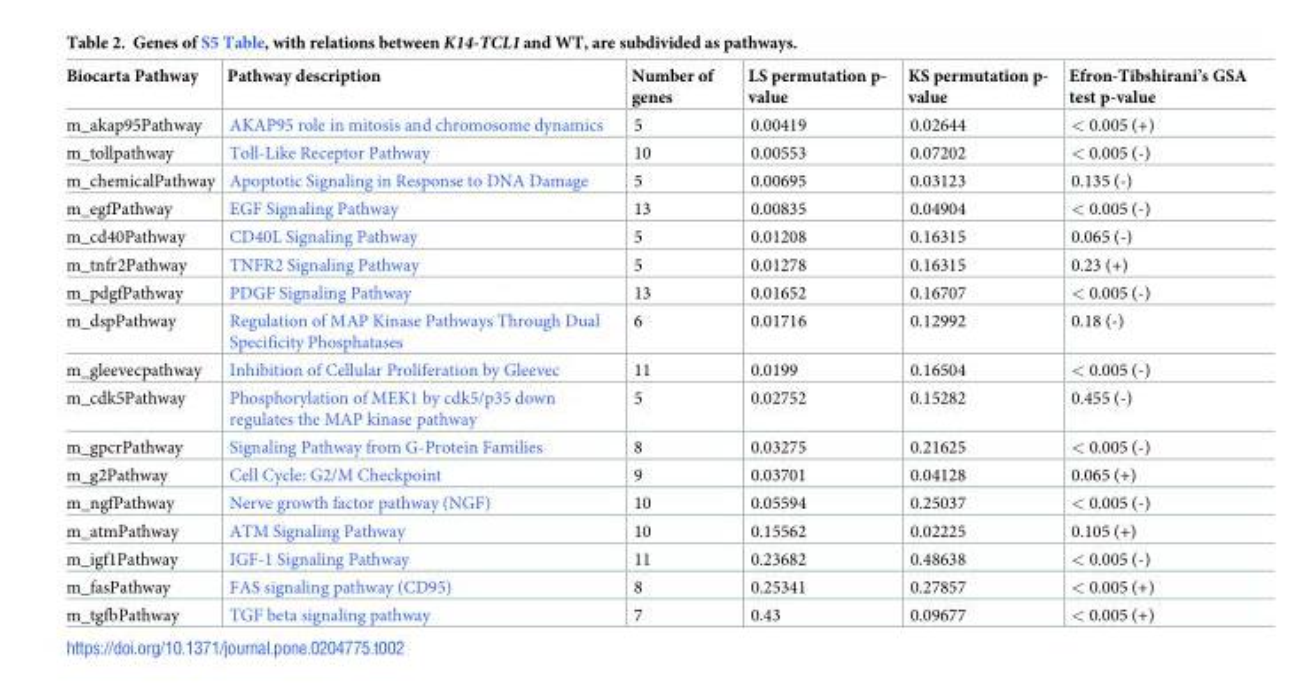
<table><thead><tr><td>Biocarta Pathway</td><td>Pathway description</td><td>Number of genes</td><td>LS permutation p- value</td><td>KS permutation p- value</td><td>Efron-Tibshirani’s GSA test p-value</td></tr></thead><tbody><tr><td>m_akap95Pathway</td><td>AKAP95 role in mitosis and chromosome dynamics</td><td>5</td><td>0.00419</td><td>0.02644</td><td>&lt; 0.005 (+)</td></tr><tr><td>m_tollpathway</td><td>Toll-Like Receptor Pathway</td><td>10</td><td>0.00553</td><td>0.07202</td><td>&lt; 0.005 (-)</td></tr><tr><td>m_chemicalPathway</td><td>Apoptotic Signaling in Response to DNA Damage</td><td>5</td><td>0.00695</td><td>0.03123</td><td>0.135 (-)</td></tr><tr><td>m_egfPathway</td><td>EGF Signaling Pathway</td><td>13</td><td>0.00835</td><td>0.04904</td><td>&lt; 0.005 (-)</td></tr><tr><td>m_cd40Pathway</td><td>CD40L Signaling Pathway</td><td>5</td><td>0.01208</td><td>0.16315</td><td>0.065 (-)</td></tr><tr><td>m_tnfr2Pathway</td><td>TNFR2 Signaling Pathway</td><td>5</td><td>0.01278</td><td>0.16315</td><td>0.23 (+)</td></tr><tr><td>m_pdgfPathway</td><td>PDGF Signaling Pathway</td><td>13</td><td>0.01652</td><td>0.16707</td><td>&lt; 0.005 (-)</td></tr><tr><td>m_dspPathway</td><td>Regulation of MAP Kinase Pathways Through Dual Specificity Phosphatases</td><td>6</td><td>0.01716</td><td>0.12992</td><td>0.18 (-)</td></tr><tr><td>m_gleevecpathway</td><td>Inhibition of Cellular Proliferation by Gleevec</td><td>11</td><td>0.0199</td><td>0.16504</td><td>&lt; 0.005 (-)</td></tr><tr><td>m_cdk5Pathway</td><td>Phosphorylation of MEK1 by cdk5/p35 down regulates the MAP kinase pathway</td><td>5</td><td>0.02752</td><td>0.15282</td><td>0.455 (-)</td></tr><tr><td>m_gpcrPathway</td><td>Signaling Pathway from G-Protein Families</td><td>8</td><td>0.03275</td><td>0.21625</td><td>&lt; 0.005 (-)</td></tr><tr><td>m_g2Pathway</td><td>Cell Cycle: G2/M Checkpoint</td><td>9</td><td>0.03701</td><td>0.04128</td><td>0.065 (+)</td></tr><tr><td>m_ngfPathway</td><td>Nerve growth factor pathway (NGF)</td><td>10</td><td>0.05594</td><td>0.25037</td><td>&lt; 0.005 (-)</td></tr><tr><td>m_atmPathway</td><td>ATM Signaling Pathway</td><td>10</td><td>0.15562</td><td>0.02225</td><td>0.105 (+)</td></tr><tr><td>m_igf1Pathway</td><td>IGF-1 Signaling Pathway</td><td>11</td><td>0.23682</td><td>0.48638</td><td>&lt; 0.005 (-)</td></tr><tr><td>m_fasPathway</td><td>FAS signaling pathway (CD95)</td><td>8</td><td>0.25341</td><td>0.27857</td><td>&lt; 0.005 (+)</td></tr><tr><td>m_tgfbPathway</td><td>TGF beta signaling pathway</td><td>7</td><td>0.43</td><td>0.09677</td><td>&lt; 0.005 (+)</td></tr></tbody></table>